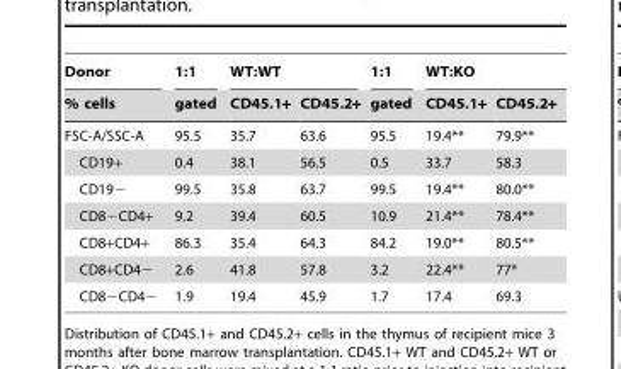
<table><thead><tr><td rowspan="2">Donor % cells</td><td rowspan="2">1:1 gated</td><td colspan="2">WT:WT</td><td rowspan="2">1:1 gated</td><td colspan="2">WT:KO</td></tr><tr><td>CD45.1+</td><td>CD45.2+</td><td>CD45.1+</td><td>CD45.2+</td></tr></thead><tbody><tr><td>FSC-A/SSC-A</td><td>95.5</td><td>35.7</td><td>63.6</td><td>95.5</td><td>19.4**</td><td>79.9**</td></tr><tr><td>CD19+</td><td>0.4</td><td>38.1</td><td>56.5</td><td>0.5</td><td>33.7</td><td>58.3</td></tr><tr><td>CD19−</td><td>99.5</td><td>35.8</td><td>63.7</td><td>99.5</td><td>19.4**</td><td>80.0**</td></tr><tr><td>CD8−CD4+</td><td>9.2</td><td>39.4</td><td>60.5</td><td>10.9</td><td>21.4**</td><td>78.4**</td></tr><tr><td>CD8+CD4+</td><td>86.3</td><td>35.4</td><td>64.3</td><td>84.2</td><td>19.0**</td><td>80.5**</td></tr><tr><td>CD8+CD4−</td><td>2.6</td><td>41.8</td><td>57.8</td><td>3.2</td><td>22.4**</td><td>77*</td></tr><tr><td>CD8−CD4−</td><td>1.9</td><td>19.4</td><td>45.9</td><td>1.7</td><td>17.4</td><td>69.3</td></tr></tbody></table>